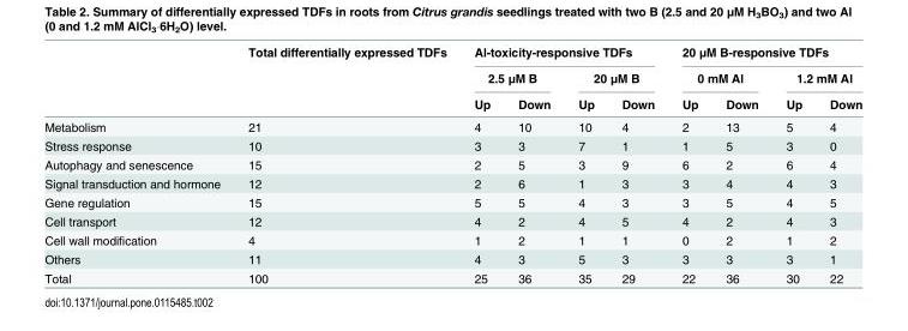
<table><thead><tr><td rowspan="3"></td><td rowspan="3">Total differentially expressed TDFs</td><td colspan="4">Al-toxicity-responsive TDFs</td><td colspan="4">20 μM B-responsive TDFs</td></tr><tr><td colspan="2">2.5 μM B</td><td colspan="2">20 μM B</td><td colspan="2">0 mM Al</td><td colspan="2">1.2 mM Al</td></tr><tr><td>Up</td><td>Down</td><td>Up</td><td>Down</td><td>Up</td><td>Down</td><td>Up</td><td>Down</td></tr></thead><tbody><tr><td>Metabolism</td><td>21</td><td>4</td><td>10</td><td>10</td><td>4</td><td>2</td><td>13</td><td>5</td><td>4</td></tr><tr><td>Stress response</td><td>10</td><td>3</td><td>3</td><td>7</td><td>1</td><td>1</td><td>5</td><td>3</td><td>0</td></tr><tr><td>Autophagy and senescence</td><td>15</td><td>2</td><td>5</td><td>3</td><td>9</td><td>6</td><td>2</td><td>6</td><td>4</td></tr><tr><td>Signal transduction and hormone</td><td>12</td><td>2</td><td>6</td><td>1</td><td>3</td><td>3</td><td>4</td><td>4</td><td>3</td></tr><tr><td>Gene regulation</td><td>15</td><td>5</td><td>5</td><td>4</td><td>3</td><td>3</td><td>5</td><td>4</td><td>5</td></tr><tr><td>Cell transport</td><td>12</td><td>4</td><td>2</td><td>4</td><td>5</td><td>4</td><td>2</td><td>4</td><td>3</td></tr><tr><td>Cell wall modification</td><td>4</td><td>1</td><td>2</td><td>1</td><td>1</td><td>0</td><td>2</td><td>1</td><td>2</td></tr><tr><td>Others</td><td>11</td><td>4</td><td>3</td><td>5</td><td>3</td><td>3</td><td>3</td><td>3</td><td>1</td></tr><tr><td>Total</td><td>100</td><td>25</td><td>36</td><td>35</td><td>29</td><td>22</td><td>36</td><td>30</td><td>22</td></tr></tbody></table>